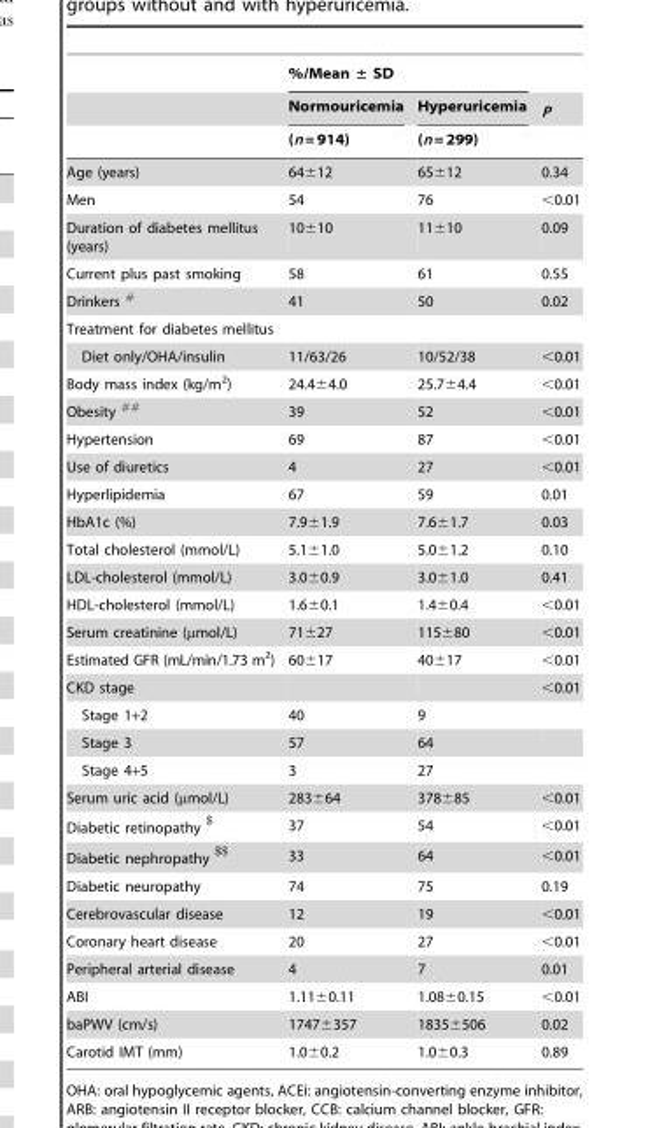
<table><thead><tr><td rowspan="3"></td><td colspan="2">%/Mean ± SD</td><td rowspan="3">P</td></tr><tr><td rowspan="2">Normouricemia (n = 914)</td><td rowspan="2">Hyperuricemia (n = 299)</td></tr><tr></tr></thead><tbody><tr><td>Age (years)</td><td>64±12</td><td>65±12</td><td>0.34</td></tr><tr><td>Men</td><td>54</td><td>76</td><td>&lt;0.01</td></tr><tr><td>Duration of diabetes mellitus (years)</td><td>10±10</td><td>11±10</td><td>0.09</td></tr><tr><td>Current plus past smoking</td><td>58</td><td>61</td><td>0.55</td></tr><tr><td>Drinkers #</td><td>41</td><td>50</td><td>0.02</td></tr><tr><td colspan="4">Treatment for diabetes mellitus</td></tr><tr><td>Diet only/OHA/insulin</td><td>11/63/26</td><td>10/52/38</td><td>&lt;0.01</td></tr><tr><td>Body mass index (kg/m<sup>2</sup>)</td><td>24.4±4.0</td><td>25.7±4.4</td><td>&lt;0.01</td></tr><tr><td>Obesity ##</td><td>39</td><td>52</td><td>&lt;0.01</td></tr><tr><td>Hypertension</td><td>69</td><td>87</td><td>&lt;0.01</td></tr><tr><td>Use of diuretics</td><td>4</td><td>27</td><td>&lt;0.01</td></tr><tr><td>Hyperlipidemia</td><td>67</td><td>59</td><td>0.01</td></tr><tr><td>HbA1c (%)</td><td>7.9±1.9</td><td>7.6±1.7</td><td>0.03</td></tr><tr><td>Total cholesterol (mmol/L)</td><td>5.1±1.0</td><td>5.0±1.2</td><td>0.10</td></tr><tr><td>LDL-cholesterol (mmol/L)</td><td>3.0±0.9</td><td>3.0±1.0</td><td>0.41</td></tr><tr><td>HDL-cholesterol (mmol/L)</td><td>1.6±0.1</td><td>1.4±0.4</td><td>&lt;0.01</td></tr><tr><td>Serum creatinine (μmol/L)</td><td>71±27</td><td>115±80</td><td>&lt;0.01</td></tr><tr><td>Estimated GFR (mL/min/1.73 m<sup>2</sup>)</td><td>60±17</td><td>40±17</td><td>&lt;0.01</td></tr><tr><td>CKD stage</td><td></td><td></td><td>&lt;0.01</td></tr><tr><td>Stage 1+2</td><td>40</td><td>9</td><td></td></tr><tr><td>Stage 3</td><td>57</td><td>64</td><td></td></tr><tr><td>Stage 4+5</td><td>3</td><td>27</td><td></td></tr><tr><td>Serum uric acid (μmol/L)</td><td>283±64</td><td>378±85</td><td>&lt;0.01</td></tr><tr><td>Diabetic retinopathy $</td><td>37</td><td>54</td><td>&lt;0.01</td></tr><tr><td>Diabetic nephropathy $$</td><td>33</td><td>64</td><td>&lt;0.01</td></tr><tr><td>Diabetic neuropathy</td><td>74</td><td>75</td><td>0.19</td></tr><tr><td>Cerebrovascular disease</td><td>12</td><td>19</td><td>&lt;0.01</td></tr><tr><td>Coronary heart disease</td><td>20</td><td>27</td><td>&lt;0.01</td></tr><tr><td>Peripheral arterial disease</td><td>4</td><td>7</td><td>0.01</td></tr><tr><td>ABI</td><td>1.11±0.11</td><td>1.08±0.15</td><td>&lt;0.01</td></tr><tr><td>baPWV (cm/s)</td><td>1747±357</td><td>1835±506</td><td>0.02</td></tr><tr><td>Carotid IMT (mm)</td><td>1.0±0.2</td><td>1.0±0.3</td><td>0.89</td></tr></tbody></table>